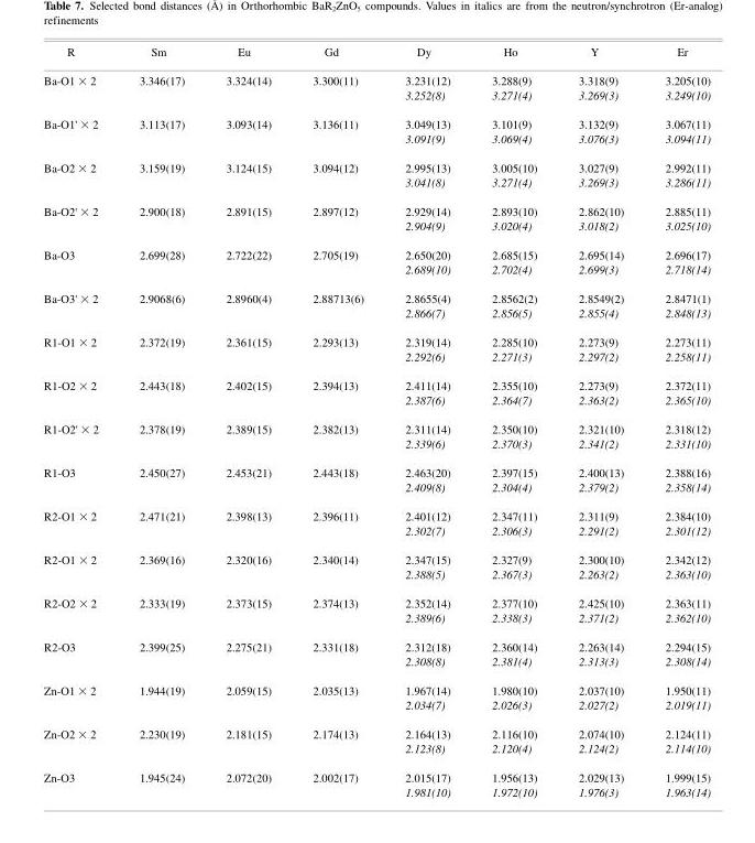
<table><thead><tr><td>R</td><td>Sm</td><td>Eu</td><td>Gd</td><td>Dy</td><td>Ho</td><td>Y</td><td>Er</td></tr></thead><tbody><tr><td rowspan="2">Ba-O1 × 2</td><td>3.346(17)</td><td>3.324(14)</td><td>3.300(11)</td><td>3.231(12)</td><td>3.288(9)</td><td>3.318(9)</td><td>3.205(10)</td></tr><tr><td></td><td></td><td></td><td>3.252(8)</td><td>3.271(4)</td><td>3.269(3)</td><td>3.249(10)</td></tr><tr><td rowspan="2">Ba-O1&#x27; × 2</td><td>3.113(17)</td><td>3.093(14)</td><td>3.136(11)</td><td>3.049(13)</td><td>3.101(9)</td><td>3.132(9)</td><td>3.067(11)</td></tr><tr><td></td><td></td><td></td><td>3.091(9)</td><td>3.069(4)</td><td>3.076(3)</td><td>3.094(11)</td></tr><tr><td rowspan="2">Ba-O2 × 2</td><td>3.159(19)</td><td>3.124(15)</td><td>3.094(12)</td><td>2.995(13)</td><td>3.005(10)</td><td>3.027(9)</td><td>2.992(11)</td></tr><tr><td></td><td></td><td></td><td>3.041(8)</td><td>3.271(4)</td><td>3.269(3)</td><td>3.286(11)</td></tr><tr><td rowspan="2">Ba-O2&#x27; × 2</td><td>2.900(18)</td><td>2.891(15)</td><td>2.897(12)</td><td>2.929(14)</td><td>2.893(10)</td><td>2.862(10)</td><td>2.885(11)</td></tr><tr><td></td><td></td><td></td><td>2.904(9)</td><td>3.020(4)</td><td>3.018(2)</td><td>3.025(10)</td></tr><tr><td rowspan="2">Ba-O3</td><td>2.699(28)</td><td>2.722(22)</td><td>2.705(19)</td><td>2.650(20)</td><td>2.685(15)</td><td>2.695(14)</td><td>2.696(17)</td></tr><tr><td></td><td></td><td></td><td>2.689(10)</td><td>2.702(4)</td><td>2.699(3)</td><td>2.718(14)</td></tr><tr><td rowspan="2">Ba-O3&#x27; × 2</td><td>2.9068(6)</td><td>2.8960(4)</td><td>2.88713(6)</td><td>2.8655(4)</td><td>2.8562(2)</td><td>2.8549(2)</td><td>2.8471(1)</td></tr><tr><td></td><td></td><td></td><td>2.866(7)</td><td>2.856(5)</td><td>2.855(4)</td><td>2.848(13)</td></tr><tr><td rowspan="2">R1-O1 × 2</td><td>2.372(19)</td><td>2.361(15)</td><td>2.293(13)</td><td>2.319(14)</td><td>2.285(10)</td><td>2.273(9)</td><td>2.273(11)</td></tr><tr><td></td><td></td><td></td><td>2.292(6)</td><td>2.271(3)</td><td>2.297(2)</td><td>2.258(11)</td></tr><tr><td rowspan="2">R1-O2 × 2</td><td>2.443(18)</td><td>2.402(15)</td><td>2.394(13)</td><td>2.411(14)</td><td>2.355(10)</td><td>2.273(9)</td><td>2.372(11)</td></tr><tr><td></td><td></td><td></td><td>2.387(6)</td><td>2.364(7)</td><td>2.363(2)</td><td>2.365(10)</td></tr><tr><td rowspan="2">R1-O2&#x27; × 2</td><td>2.378(19)</td><td>2.389(15)</td><td>2.382(13)</td><td>2.311(14)</td><td>2.350(10)</td><td>2.321(10)</td><td>2.318(12)</td></tr><tr><td></td><td></td><td></td><td>2.339(6)</td><td>2.370(3)</td><td>2.341(2)</td><td>2.331(10)</td></tr><tr><td rowspan="2">R1-O3</td><td>2.450(27)</td><td>2.453(21)</td><td>2.443(18)</td><td>2.463(20)</td><td>2.397(15)</td><td>2.400(13)</td><td>2.388(16)</td></tr><tr><td></td><td></td><td></td><td>2.409(8)</td><td>2.304(4)</td><td>2.379(2)</td><td>2.358(14)</td></tr><tr><td rowspan="2">R2-O1 × 2</td><td>2.471(21)</td><td>2.398(13)</td><td>2.396(11)</td><td>2.401(12)</td><td>2.347(11)</td><td>2.311(9)</td><td>2.384(10)</td></tr><tr><td></td><td></td><td></td><td>2.302(7)</td><td>2.306(3)</td><td>2.291(2)</td><td>2.301(12)</td></tr><tr><td rowspan="2">R2-O1 × 2</td><td>2.369(16)</td><td>2.320(16)</td><td>2.340(14)</td><td>2.347(15)</td><td>2.327(9)</td><td>2.300(10)</td><td>2.342(12)</td></tr><tr><td></td><td></td><td></td><td>2.388(5)</td><td>2.367(3)</td><td>2.263(2)</td><td>2.363(10)</td></tr><tr><td rowspan="2">R2-O2 × 2</td><td>2.333(19)</td><td>2.373(15)</td><td>2.374(13)</td><td>2.352(14)</td><td>2.377(10)</td><td>2.425(10)</td><td>2.363(11)</td></tr><tr><td></td><td></td><td></td><td>2.389(6)</td><td>2.338(3)</td><td>2.371(2)</td><td>2.362(10)</td></tr><tr><td rowspan="2">R2-O3</td><td>2.399(25)</td><td>2.275(21)</td><td>2.331(18)</td><td>2.312(18)</td><td>2.360(14)</td><td>2.263(14)</td><td>2.294(15)</td></tr><tr><td></td><td></td><td></td><td>2.308(8)</td><td>2.381(4)</td><td>2.313(3)</td><td>2.308(14)</td></tr><tr><td rowspan="2">Zn-O1 × 2</td><td>1.944(19)</td><td>2.059(15)</td><td>2.035(13)</td><td>1.967(14)</td><td>1.980(10)</td><td>2.037(10)</td><td>1.950(11)</td></tr><tr><td></td><td></td><td></td><td>2.034(7)</td><td>2.026(3)</td><td>2.027(2)</td><td>2.019(11)</td></tr><tr><td rowspan="2">Zn-O2 × 2</td><td>2.230(19)</td><td>2.181(15)</td><td>2.174(13)</td><td>2.164(13)</td><td>2.116(10)</td><td>2.074(10)</td><td>2.124(11)</td></tr><tr><td></td><td></td><td></td><td>2.123(8)</td><td>2.120(4)</td><td>2.124(2)</td><td>2.114(10)</td></tr><tr><td rowspan="2">Zn-O3</td><td>1.945(24)</td><td>2.072(20)</td><td>2.002(17)</td><td>2.015(17)</td><td>1.956(13)</td><td>2.029(13)</td><td>1.999(15)</td></tr><tr><td></td><td></td><td></td><td>1.981(10)</td><td>1.972(10)</td><td>1.976(3)</td><td>1.963(14)</td></tr></tbody></table>